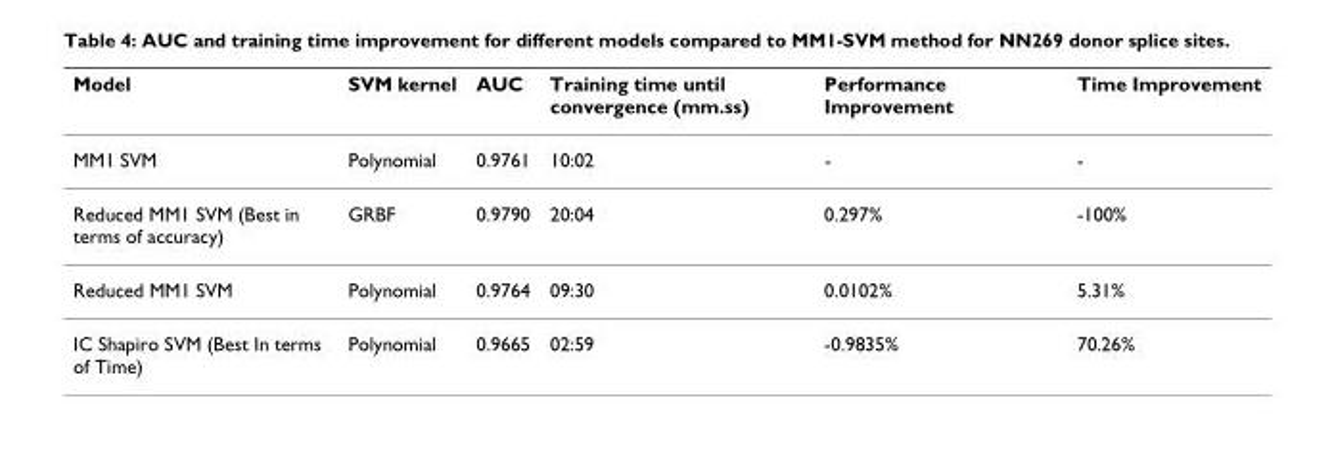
<table><thead><tr><td>Model</td><td>SVM kernel</td><td>AUC</td><td>Training time until convergence (mm.ss)</td><td>Performance Improvement</td><td>Time Improvement</td></tr></thead><tbody><tr><td>MM1 SVM</td><td>Polynomial</td><td>0.9761</td><td>10:02</td><td>-</td><td>-</td></tr><tr><td>Reduced MM1 SVM (Best in terms of accuracy)</td><td>GRBF</td><td>0.9790</td><td>20:04</td><td>0.297%</td><td>-100%</td></tr><tr><td>Reduced MM1 SVM</td><td>Polynomial</td><td>0.9764</td><td>09:30</td><td>0.0102%</td><td>5.31%</td></tr><tr><td>IC Shapiro SVM (Best In terms of Time)</td><td>Polynomial</td><td>0.9665</td><td>02:59</td><td>-0.9835%</td><td>70.26%</td></tr></tbody></table>